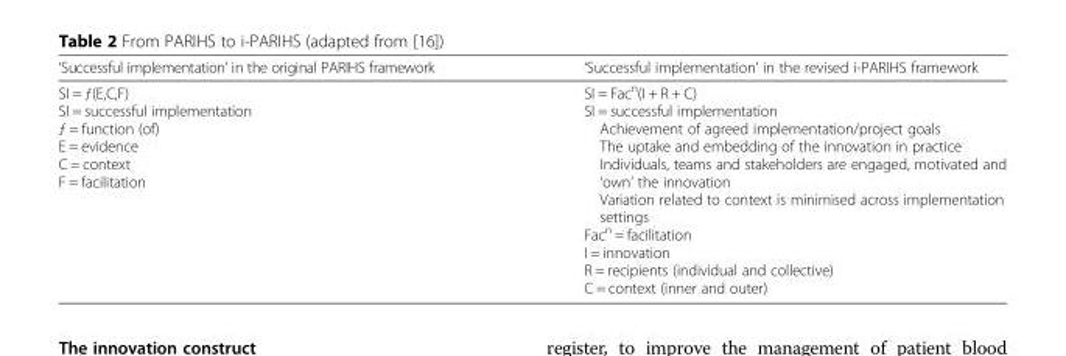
<table><thead><tr><td>‘Successful implementation’ in the original PARIHS framework</td><td>‘Successful implementation’ in the revised i-PARIHS framework</td></tr></thead><tbody><tr><td>SI = ƒ(E,C,F) SI = successful implementation ƒ = function (of) E = evidence C = context F = facilitation</td><td>SI = Fac<sup>n</sup>(I + R + C) SI = successful implementation Achievement of agreed implementation/project goals The uptake and embedding of the innovation in practice Individuals, teams and stakeholders are engaged, motivated and ‘own’ the innovation Variation related to context is minimised across implementation settings Fac<sup>n</sup> = facilitation I = innovation R = recipients (individual and collective) C = context (inner and outer)</td></tr></tbody></table>